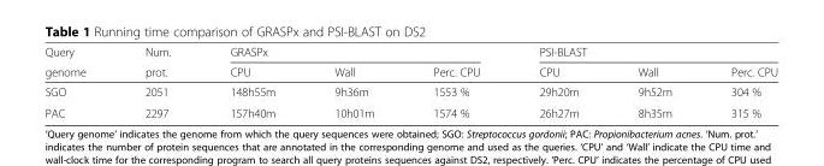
<table><thead><tr><td rowspan="2">Query genome</td><td rowspan="2">Num. prot.</td><td colspan="3">GRASPx</td><td colspan="3">PSI-BLAST</td></tr><tr><td>CPU</td><td>Wall</td><td>Perc. CPU</td><td>CPU</td><td>Wall</td><td>Perc. CPU</td></tr></thead><tbody><tr><td>SGO</td><td>2051</td><td>148h55m</td><td>9h36m</td><td>1553 %</td><td>29h20m</td><td>9h52m</td><td>304 %</td></tr><tr><td>PAC</td><td>2297</td><td>157h40m</td><td>10h01m</td><td>1574 %</td><td>26h27m</td><td>8h35m</td><td>315 %</td></tr></tbody></table>